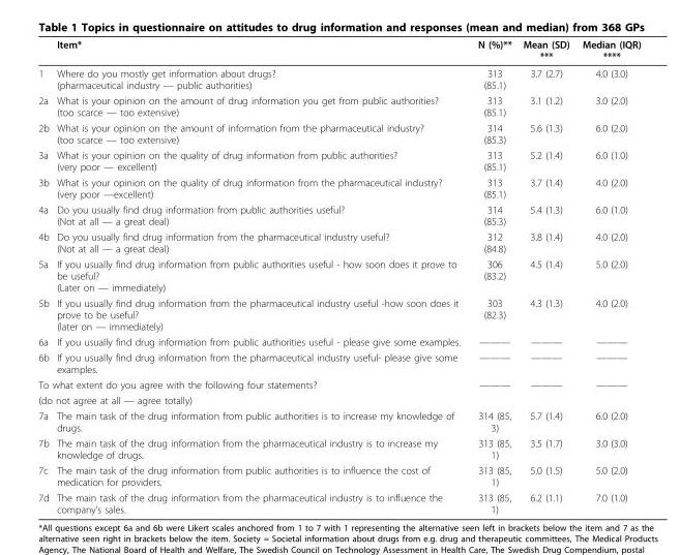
<table><thead><tr><td></td><td>Item*</td><td>N (%)**</td><td>Mean (SD) ***</td><td>Median (IQR) ****</td></tr></thead><tbody><tr><td>1</td><td>Where do you mostly get information about drugs? (pharmaceutical industry — public authorities)</td><td>313 (85.1)</td><td>3.7 (2.7)</td><td>4.0 (3.0)</td></tr><tr><td>2a</td><td>What is your opinion on the amount of drug information you get from public authorities? (too scarce — too extensive)</td><td>313 (85.1)</td><td>3.1 (1.2)</td><td>3.0 (2.0)</td></tr><tr><td>2b</td><td>What is your opinion on the amount of information from the pharmaceutical industry? (too scarce — too extensive)</td><td>314 (85.3)</td><td>5.6 (1.3)</td><td>6.0 (2.0)</td></tr><tr><td>3a</td><td>What is your opinion on the quality of drug information from public authorities? (very poor — excellent)</td><td>313 (85.1)</td><td>5.2 (1.4)</td><td>6.0 (1.0)</td></tr><tr><td>3b</td><td>What is your opinion on the quality of drug information from the pharmaceutical industry? (very poor —excellent)</td><td>313 (85.1)</td><td>3.7 (1.4)</td><td>4.0 (2.0)</td></tr><tr><td>4a</td><td>Do you usually find drug information from public authorities useful? (Not at all — a great deal)</td><td>314 (85.3)</td><td>5.4 (1.3)</td><td>6.0 (1.0)</td></tr><tr><td>4b</td><td>Do you usually find drug information from the pharmaceutical industry useful? (Not at all — a great deal)</td><td>312 (84.8)</td><td>3.8 (1.4)</td><td>4.0 (2.0)</td></tr><tr><td>5a</td><td>If you usually find drug information from public authorities useful - how soon does it prove to be useful? (Later on — immediately)</td><td>306 (83.2)</td><td>4.5 (1.4)</td><td>5.0 (2.0)</td></tr><tr><td>5b</td><td>If you usually find drug information from the pharmaceutical industry useful -how soon does it prove to be useful? (later on — immediately)</td><td>303 (82.3)</td><td>4.3 (1.3)</td><td>4.0 (2.0)</td></tr><tr><td>6a</td><td>If you usually find drug information from public authorities useful - please give some examples.</td><td>———</td><td>———</td><td>———</td></tr><tr><td>6b</td><td>If you usually find drug information from the pharmaceutical industry useful- please give some examples.</td><td>———</td><td>———</td><td>———</td></tr><tr><td colspan="2">To what extent do you agree with the following four statements?</td><td>———</td><td>———</td><td>———</td></tr><tr><td colspan="5">(do not agree at all — agree totally)</td></tr><tr><td>7a</td><td>The main task of the drug information from public authorities is to increase my knowledge of drugs.</td><td>314 (85, 3)</td><td>5.7 (1.4)</td><td>6.0 (2.0)</td></tr><tr><td>7b</td><td>The main task of the drug information from the pharmaceutical industry is to increase my knowledge of drugs.</td><td>313 (85, 1)</td><td>3.5 (1.7)</td><td>3.0 (3.0)</td></tr><tr><td>7c</td><td>The main task of the drug information from public authorities is to influence the cost of medication for providers.</td><td>313 (85, 1)</td><td>5.0 (1.5)</td><td>5.0 (2.0)</td></tr><tr><td>7d</td><td>The main task of the drug information from the pharmaceutical industry is to influence the company’s sales.</td><td>313 (85, 1)</td><td>6.2 (1.1)</td><td>7.0 (1.0)</td></tr></tbody></table>